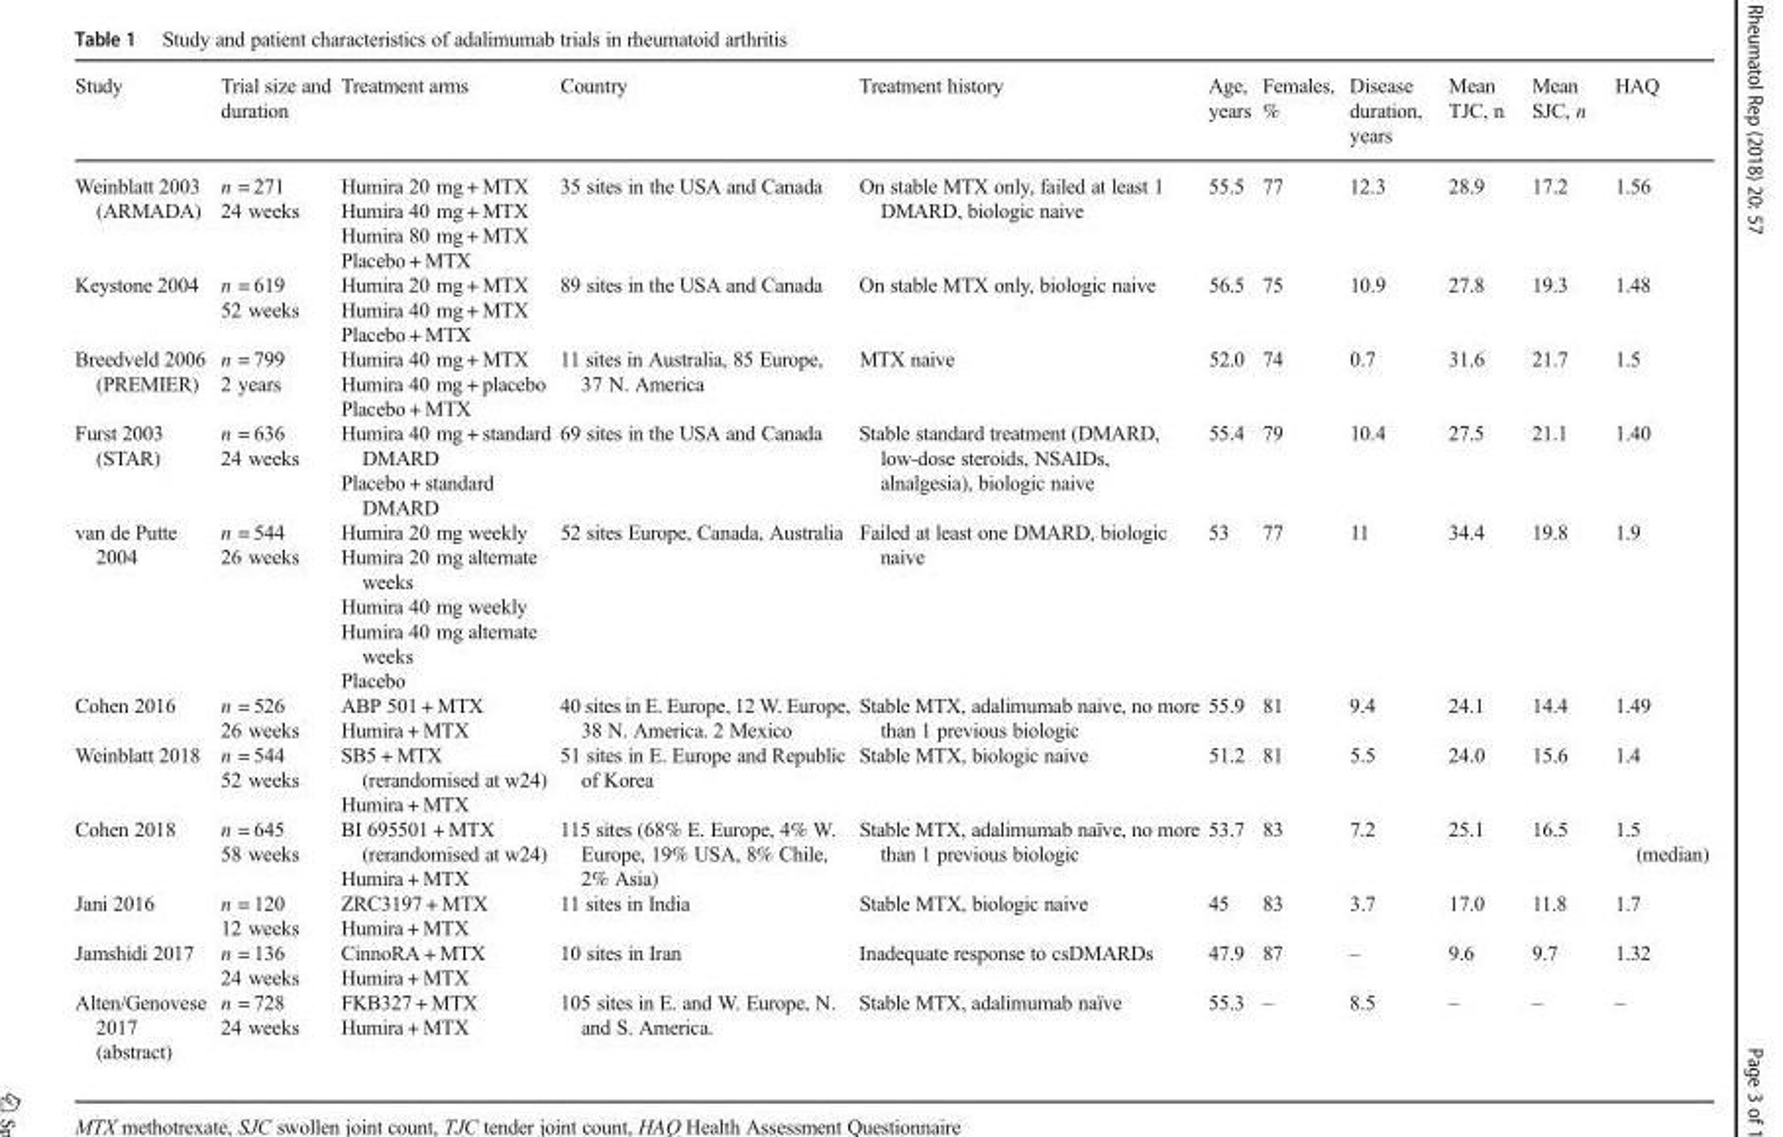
<table><thead><tr><td>Study</td><td>Trial size and duration</td><td>Treatment arms</td><td>Country</td><td>Treatment history</td><td>Age, years</td><td>Females, %</td><td>Disease duration, years</td><td>Mean TJC, n</td><td>Mean SJC, n</td><td>HAQ</td></tr></thead><tbody><tr><td>Weinblatt 2003 (ARMADA)</td><td>n = 271 24 weeks</td><td>Humira 20 mg + MTX Humira 40 mg + MTX Humira 80 mg + MTX Placebo + MTX</td><td>35 sites in the USA and Canada</td><td>On stable MTX only, failed at least 1 DMARD, biologic naive</td><td>55.5</td><td>77</td><td>12.3</td><td>28.9</td><td>17.2</td><td>1.56</td></tr><tr><td>Keystone 2004</td><td>n = 619 52 weeks</td><td>Humira 20 mg + MTX Humira 40 mg + MTX Placebo + MTX</td><td>89 sites in the USA and Canada</td><td>On stable MTX only, biologic naive</td><td>56.5</td><td>75</td><td>10.9</td><td>27.8</td><td>19.3</td><td>1.48</td></tr><tr><td>Breedveld 2006 (PREMIER)</td><td>n = 799 2 years</td><td>Humira 40 mg + MTX Humira 40 mg + placebo Placebo + MTX</td><td>11 sites in Australia, 85 Europe, 37 N. America</td><td>MTX naive</td><td>52.0</td><td>74</td><td>0.7</td><td>31.6</td><td>21.7</td><td>1.5</td></tr><tr><td>Furst 2003 (STAR)</td><td>n = 636 24 weeks</td><td>Humira 40 mg + standard DMARD Placebo + standard DMARD</td><td>69 sites in the USA and Canada</td><td>Stable standard treatment (DMARD, low-dose steroids, NSAIDs, alnalgesia), biologic naive</td><td>55.4</td><td>79</td><td>10.4</td><td>27.5</td><td>21.1</td><td>1.40</td></tr><tr><td>van de Putte 2004</td><td>n = 544 26 weeks</td><td>Humira 20 mg weekly Humira 20 mg alternate weeks Humira 40 mg weekly Humira 40 mg alternate weeks Placebo</td><td>52 sites Europe, Canada, Australia</td><td>Failed at least one DMARD, biologic naive</td><td>53</td><td>77</td><td>11</td><td>34.4</td><td>19.8</td><td>1.9</td></tr><tr><td>Cohen 2016</td><td>n = 526 26 weeks</td><td>ABP 501 + MTX Humira + MTX</td><td>40 sites in E. Europe, 12 W. Europe, 38 N. America. 2 Mexico</td><td>Stable MTX, adalimumab naive, no more than 1 previous biologic</td><td>55.9</td><td>81</td><td>9.4</td><td>24.1</td><td>14.4</td><td>1.49</td></tr><tr><td>Weinblatt 2018</td><td>n = 544 52 weeks</td><td>SB5 + MTX (rerandomised at w24) Humira + MTX</td><td>51 sites in E. Europe and Republic of Korea</td><td>Stable MTX, biologic naive</td><td>51.2</td><td>81</td><td>5.5</td><td>24.0</td><td>15.6</td><td>1.4</td></tr><tr><td>Cohen 2018</td><td>n = 645 58 weeks</td><td>BI 695501 + MTX (rerandomised at w24) Humira + MTX</td><td>115 sites (68% E. Europe, 4% W. Europe, 19% USA, 8% Chile, 2% Asia)</td><td>Stable MTX, adalimumab naïve, no more than 1 previous biologic</td><td>53.7</td><td>83</td><td>7.2</td><td>25.1</td><td>16.5</td><td>1.5 (median)</td></tr><tr><td>Jani 2016</td><td>n = 120 12 weeks</td><td>ZRC3197 + MTX Humira + MTX</td><td>11 sites in India</td><td>Stable MTX, biologic naive</td><td>45</td><td>83</td><td>3.7</td><td>17.0</td><td>11.8</td><td>1.7</td></tr><tr><td>Jamshidi 2017</td><td>n = 136 24 weeks</td><td>CinnoRA + MTX Humira + MTX</td><td>10 sites in Iran</td><td>Inadequate response to csDMARDs</td><td>47.9</td><td>87</td><td>–</td><td>9.6</td><td>9.7</td><td>1.32</td></tr><tr><td>Alten/Genovese 2017 (abstract)</td><td>n = 728 24 weeks</td><td>FKB327 + MTX Humira + MTX</td><td>105 sites in E. and W. Europe, N. and S. America.</td><td>Stable MTX, adalimumab naïve</td><td>55.3</td><td>–</td><td>8.5</td><td>–</td><td>–</td><td>–</td></tr></tbody></table>